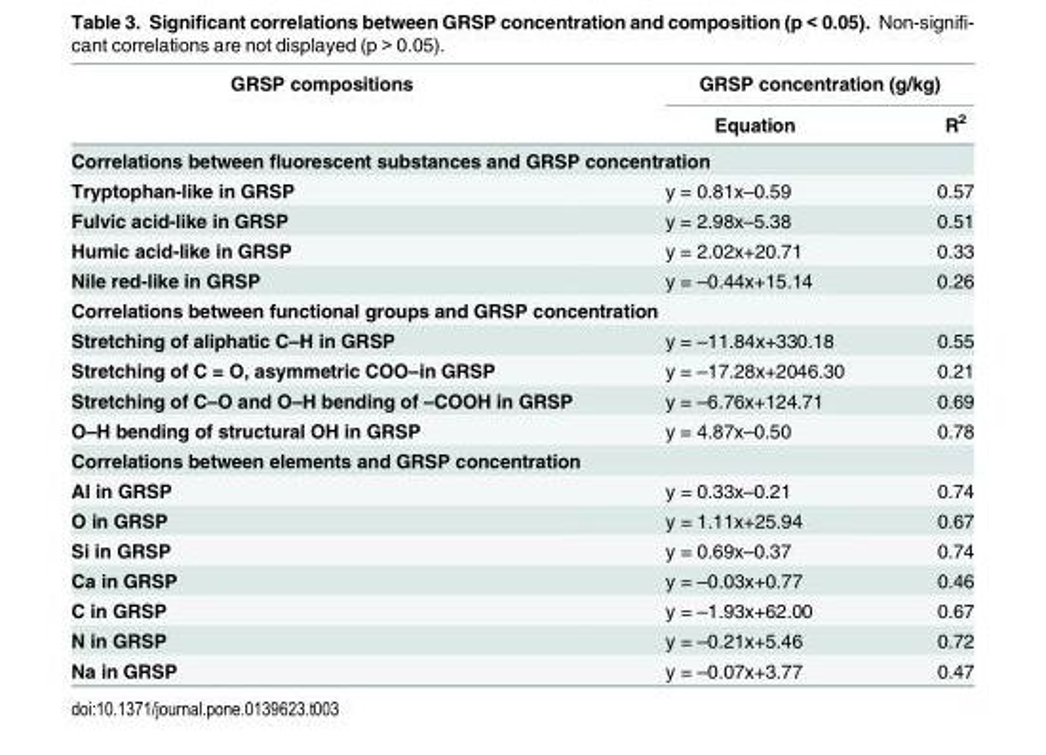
<table><thead><tr><td rowspan="2">GRSP compositions</td><td colspan="2">GRSP concentration (g/kg)</td></tr><tr><td>Equation</td><td>R<sup>2</sup></td></tr></thead><tbody><tr><td colspan="3">Correlations between fluorescent substances and GRSP concentration</td></tr><tr><td>Tryptophan-like in GRSP</td><td>y = 0.81x–0.59</td><td>0.57</td></tr><tr><td>Fulvic acid-like in GRSP</td><td>y = 2.98x–5.38</td><td>0.51</td></tr><tr><td>Humic acid-like in GRSP</td><td>y = 2.02x+20.71</td><td>0.33</td></tr><tr><td>Nile red-like in GRSP</td><td>y = –0.44x+15.14</td><td>0.26</td></tr><tr><td colspan="3">Correlations between functional groups and GRSP concentration</td></tr><tr><td>Stretching of aliphatic C–H in GRSP</td><td>y = –11.84x+330.18</td><td>0.55</td></tr><tr><td>Stretching of C = O, asymmetric COO–in GRSP</td><td>y = –17.28x+2046.30</td><td>0.21</td></tr><tr><td>Stretching of C–O and O–H bending of –COOH in GRSP</td><td>y = –6.76x+124.71</td><td>0.69</td></tr><tr><td>O–H bending of structural OH in GRSP</td><td>y = 4.87x–0.50</td><td>0.78</td></tr><tr><td colspan="3">Correlations between elements and GRSP concentration</td></tr><tr><td>Al in GRSP</td><td>y = 0.33x–0.21</td><td>0.74</td></tr><tr><td>O in GRSP</td><td>y = 1.11x+25.94</td><td>0.67</td></tr><tr><td>Si in GRSP</td><td>y = 0.69x–0.37</td><td>0.74</td></tr><tr><td>Ca in GRSP</td><td>y = –0.03x+0.77</td><td>0.46</td></tr><tr><td>C in GRSP</td><td>y = –1.93x+62.00</td><td>0.67</td></tr><tr><td>N in GRSP</td><td>y = –0.21x+5.46</td><td>0.72</td></tr><tr><td>Na in GRSP</td><td>y = –0.07x+3.77</td><td>0.47</td></tr></tbody></table>